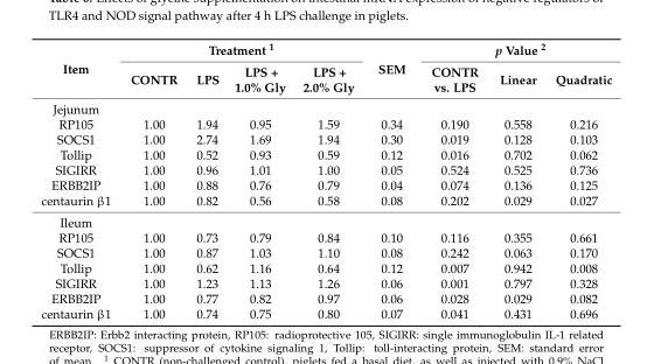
<table><thead><tr><td rowspan="2">Item</td><td colspan="4">Treatment <sup>1</sup></td><td rowspan="2">SEM</td><td colspan="3">p Value <sup>2</sup></td></tr><tr><td>CONTR</td><td>LPS</td><td>LPS + 1.0% Gly</td><td>LPS + 2.0% Gly</td><td>CONTR vs. LPS</td><td>Linear</td><td>Quadratic</td></tr></thead><tbody><tr><td colspan="9">Jejunum</td></tr><tr><td>RP105</td><td>1.00</td><td>1.94</td><td>0.95</td><td>1.59</td><td>0.34</td><td>0.190</td><td>0.558</td><td>0.216</td></tr><tr><td>SOCS1</td><td>1.00</td><td>2.74</td><td>1.69</td><td>1.94</td><td>0.30</td><td>0.019</td><td>0.128</td><td>0.103</td></tr><tr><td>Tollip</td><td>1.00</td><td>0.52</td><td>0.93</td><td>0.59</td><td>0.12</td><td>0.016</td><td>0.702</td><td>0.062</td></tr><tr><td>SIGIRR</td><td>1.00</td><td>0.96</td><td>1.01</td><td>1.00</td><td>0.05</td><td>0.524</td><td>0.525</td><td>0.736</td></tr><tr><td>ERBB2IP</td><td>1.00</td><td>0.88</td><td>0.76</td><td>0.79</td><td>0.04</td><td>0.074</td><td>0.136</td><td>0.125</td></tr><tr><td>centaurin β1</td><td>1.00</td><td>0.82</td><td>0.56</td><td>0.58</td><td>0.08</td><td>0.202</td><td>0.029</td><td>0.027</td></tr><tr><td colspan="9">Ileum</td></tr><tr><td>RP105</td><td>1.00</td><td>0.73</td><td>0.79</td><td>0.84</td><td>0.10</td><td>0.116</td><td>0.355</td><td>0.661</td></tr><tr><td>SOCS1</td><td>1.00</td><td>0.87</td><td>1.03</td><td>1.10</td><td>0.08</td><td>0.242</td><td>0.063</td><td>0.170</td></tr><tr><td>Tollip</td><td>1.00</td><td>0.62</td><td>1.16</td><td>0.64</td><td>0.12</td><td>0.007</td><td>0.942</td><td>0.008</td></tr><tr><td>SIGIRR</td><td>1.00</td><td>1.23</td><td>1.13</td><td>1.26</td><td>0.06</td><td>0.001</td><td>0.797</td><td>0.328</td></tr><tr><td>ERBB2IP</td><td>1.00</td><td>0.77</td><td>0.82</td><td>0.97</td><td>0.06</td><td>0.028</td><td>0.029</td><td>0.082</td></tr><tr><td>centaurin β1</td><td>1.00</td><td>0.74</td><td>0.75</td><td>0.80</td><td>0.07</td><td>0.041</td><td>0.431</td><td>0.696</td></tr></tbody></table>